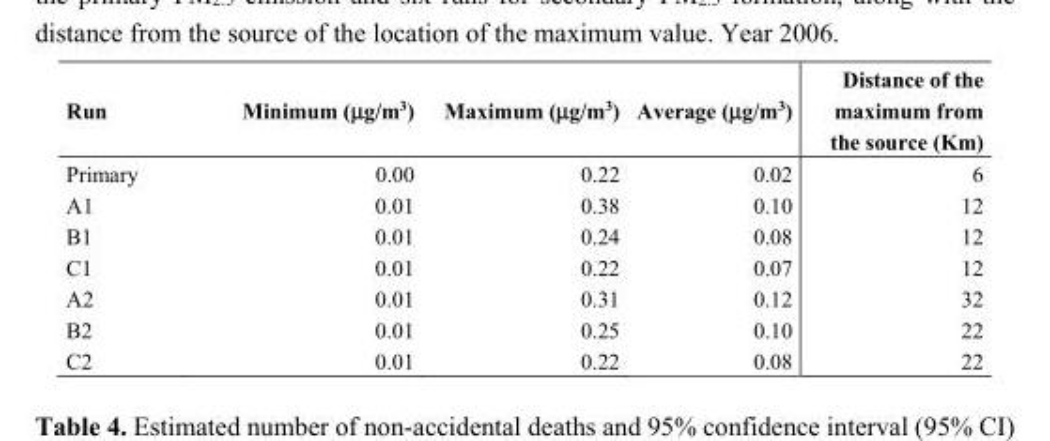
<table><thead><tr><td>Run</td><td>Minimum (μg/m<sup>3</sup>)</td><td>Maximum (μg/m<sup>3</sup>)</td><td>Average (μg/m<sup>3</sup>)</td><td>Distance of the maximum from the source (Km)</td></tr></thead><tbody><tr><td>Primary</td><td>0.00</td><td>0.22</td><td>0.02</td><td>6</td></tr><tr><td>A1</td><td>0.01</td><td>0.38</td><td>0.10</td><td>12</td></tr><tr><td>B1</td><td>0.01</td><td>0.24</td><td>0.08</td><td>12</td></tr><tr><td>C1</td><td>0.01</td><td>0.22</td><td>0.07</td><td>12</td></tr><tr><td>A2</td><td>0.01</td><td>0.31</td><td>0.12</td><td>32</td></tr><tr><td>B2</td><td>0.01</td><td>0.25</td><td>0.10</td><td>22</td></tr><tr><td>C2</td><td>0.01</td><td>0.22</td><td>0.08</td><td>22</td></tr></tbody></table>